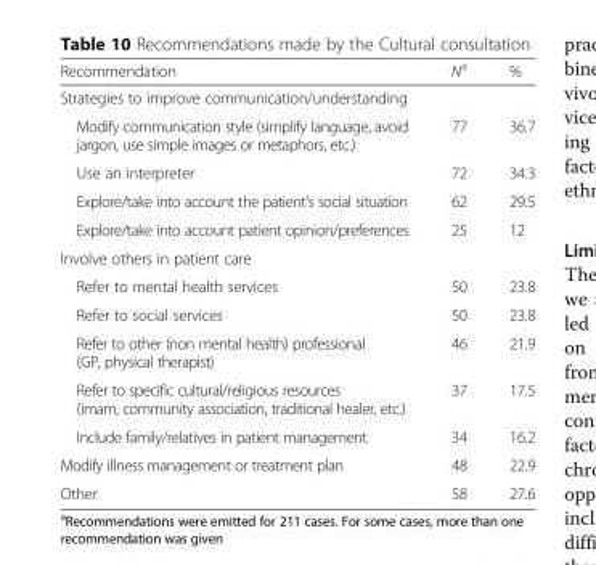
<table><thead><tr><td>Recommendation</td><td>N<sup>a</sup></td><td>%</td></tr></thead><tbody><tr><td colspan="3">Strategies to improve communication/understanding</td></tr><tr><td>Modify communication style (simplify language, avoid jargon, use simple images or metaphors, etc.)</td><td>77</td><td>36.7</td></tr><tr><td>Use an interpreter</td><td>72</td><td>34.3</td></tr><tr><td>Explore/take into account the patient’s social situation</td><td>62</td><td>29.5</td></tr><tr><td>Explore/take into account patient opinion/preferences</td><td>25</td><td>12</td></tr><tr><td colspan="3">Involve others in patient care</td></tr><tr><td>Refer to mental health services</td><td>50</td><td>23.8</td></tr><tr><td>Refer to social services</td><td>50</td><td>23.8</td></tr><tr><td>Refer to other (non mental health) professional (GP, physical therapist)</td><td>46</td><td>21.9</td></tr><tr><td>Refer to specific cultural/religious resources (imam, community association, traditional healer, etc.)</td><td>37</td><td>17.5</td></tr><tr><td>Include family/relatives in patient management</td><td>34</td><td>16.2</td></tr><tr><td>Modify illness management or treatment plan</td><td>48</td><td>22.9</td></tr><tr><td>Other</td><td>58</td><td>27.6</td></tr></tbody></table>